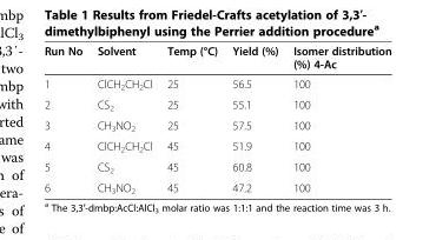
<table><thead><tr><td>Run No</td><td>Solvent</td><td>Temp (°C)</td><td>Yield (%)</td><td>Isomer distribution (%) 4-Ac</td></tr></thead><tbody><tr><td>1</td><td>ClCH<sub>2</sub>CH<sub>2</sub>Cl</td><td>25</td><td>56.5</td><td>100</td></tr><tr><td>2</td><td>CS<sub>2</sub></td><td>25</td><td>55.1</td><td>100</td></tr><tr><td>3</td><td>CH<sub>3</sub>NO<sub>2</sub></td><td>25</td><td>57.5</td><td>100</td></tr><tr><td>4</td><td>ClCH<sub>2</sub>CH<sub>2</sub>Cl</td><td>45</td><td>51.9</td><td>100</td></tr><tr><td>5</td><td>CS<sub>2</sub></td><td>45</td><td>60.8</td><td>100</td></tr><tr><td>6</td><td>CH<sub>3</sub>NO<sub>2</sub></td><td>45</td><td>47.2</td><td>100</td></tr></tbody></table>